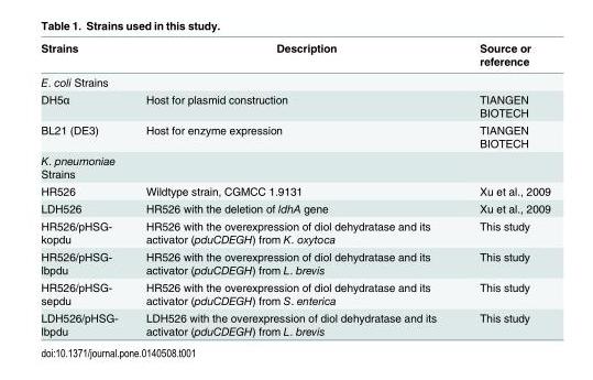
<table><thead><tr><td>Strains</td><td>Description</td><td>Source or reference</td></tr></thead><tbody><tr><td colspan="3">E. coli Strains</td></tr><tr><td>DH5α</td><td>Host for plasmid construction</td><td>TIANGEN BIOTECH</td></tr><tr><td>BL21 (DE3)</td><td>Host for enzyme expression</td><td>TIANGEN BIOTECH</td></tr><tr><td colspan="3">K. pneumoniae Strains</td></tr><tr><td>HR526</td><td>Wildtype strain, CGMCC 1.9131</td><td>Xu et al., 2009</td></tr><tr><td>LDH526</td><td>HR526 with the deletion of ldhA gene</td><td>Xu et al., 2009</td></tr><tr><td>HR526/pHSG- kopdu</td><td>HR526 with the overexpression of diol dehydratase and its activator (pduCDEGH) from K. oxytoca</td><td>This study</td></tr><tr><td>HR526/pHSG- lbpdu</td><td>HR526 with the overexpression of diol dehydratase and its activator (pduCDEGH) from L. brevis</td><td>This study</td></tr><tr><td>HR526/pHSG- sepdu</td><td>HR526 with the overexpression of diol dehydratase and its activator (pduCDEGH) from S. enterica</td><td>This study</td></tr><tr><td>LDH526/pHSG- lbpdu</td><td>LDH526 with the overexpression of diol dehydratase and its activator (pduCDEGH) from L. brevis</td><td>This study</td></tr></tbody></table>